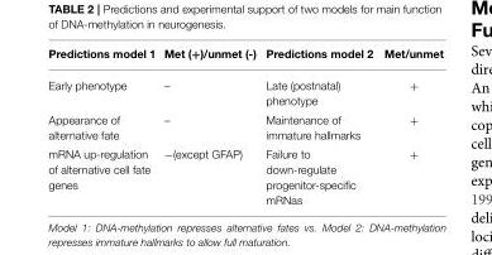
<table><thead><tr><td>Predictions model 1</td><td>Met (+)/unmet (-)</td><td>Predictions model 2</td><td>Met/unmet</td></tr></thead><tbody><tr><td>Early phenotype</td><td>–</td><td>Late (postnatal) phenotype</td><td>+</td></tr><tr><td>Appearance of alternative fate</td><td>–</td><td>Maintenance of immature hallmarks</td><td>+</td></tr><tr><td>mRNA up-regulation of alternative cell fate genes</td><td>−(except GFAP)</td><td>Failure to down-regulate progenitor-specific mRNas</td><td>+</td></tr></tbody></table>